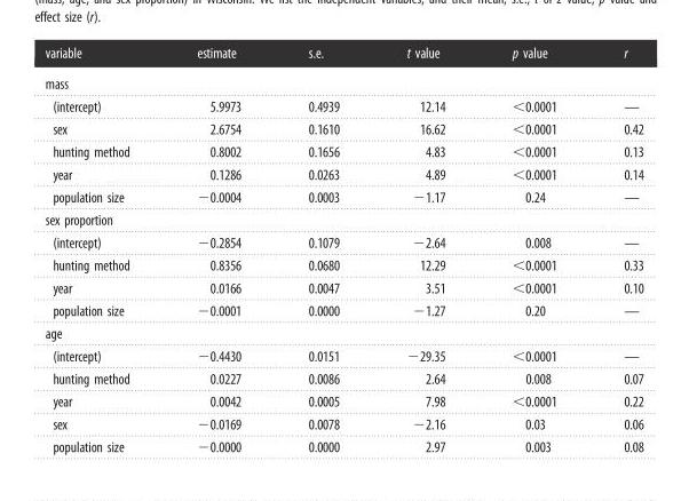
<table><thead><tr><td>variable</td><td>estimate</td><td>s.e.</td><td>t value</td><td>p value</td><td>r</td></tr></thead><tbody><tr><td colspan="6">mass</td></tr><tr><td>(intercept)</td><td>5.9973</td><td>0.4939</td><td>12.14</td><td>&lt;0.0001</td><td>—</td></tr><tr><td>sex</td><td>2.6754</td><td>0.1610</td><td>16.62</td><td>&lt;0.0001</td><td>0.42</td></tr><tr><td>hunting method</td><td>0.8002</td><td>0.1656</td><td>4.83</td><td>&lt;0.0001</td><td>0.13</td></tr><tr><td>year</td><td>0.1286</td><td>0.0263</td><td>4.89</td><td>&lt;0.0001</td><td>0.14</td></tr><tr><td>population size</td><td>−0.0004</td><td>0.0003</td><td>−1.17</td><td>0.24</td><td>—</td></tr><tr><td colspan="6">sex proportion</td></tr><tr><td>(intercept)</td><td>−0.2854</td><td>0.1079</td><td>−2.64</td><td>0.008</td><td>—</td></tr><tr><td>hunting method</td><td>0.8356</td><td>0.0680</td><td>12.29</td><td>&lt;0.0001</td><td>0.33</td></tr><tr><td>year</td><td>0.0166</td><td>0.0047</td><td>3.51</td><td>&lt;0.0001</td><td>0.10</td></tr><tr><td>population size</td><td>−0.0001</td><td>0.0000</td><td>−1.27</td><td>0.20</td><td>—</td></tr><tr><td colspan="6">age</td></tr><tr><td>(intercept)</td><td>−0.4430</td><td>0.0151</td><td>−29.35</td><td>&lt;0.0001</td><td>—</td></tr><tr><td>hunting method</td><td>0.0227</td><td>0.0086</td><td>2.64</td><td>0.008</td><td>0.07</td></tr><tr><td>year</td><td>0.0042</td><td>0.0005</td><td>7.98</td><td>&lt;0.0001</td><td>0.22</td></tr><tr><td>sex</td><td>−0.0169</td><td>0.0078</td><td>−2.16</td><td>0.03</td><td>0.06</td></tr><tr><td>population size</td><td>−0.0000</td><td>0.0000</td><td>2.97</td><td>0.003</td><td>0.08</td></tr></tbody></table>